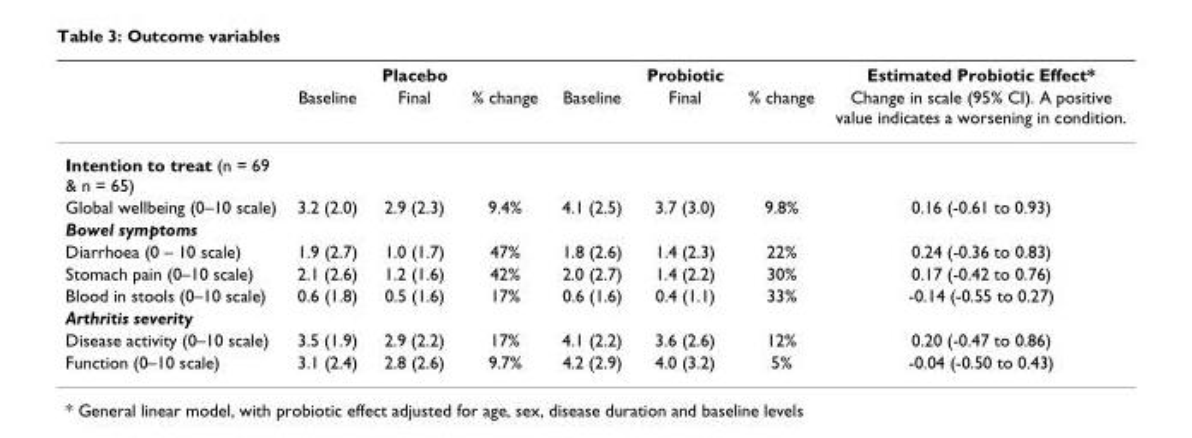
<table><thead><tr><td rowspan="2"></td><td rowspan="2">Baseline</td><td rowspan="2">Placebo Final</td><td rowspan="2">% change</td><td rowspan="2">Baseline</td><td rowspan="2">Probiotic Final</td><td rowspan="2">% change</td><td rowspan="2">Estimated Probiotic Effect* Change in scale (95% CI). A positive value indicates a worsening in condition.</td></tr><tr></tr></thead><tbody><tr><td colspan="8">Intention to treat (n = 69 &amp; n = 65)</td></tr><tr><td>Global wellbeing (0–10 scale)</td><td>3.2 (2.0)</td><td>2.9 (2.3)</td><td>9.4%</td><td>4.1 (2.5)</td><td>3.7 (3.0)</td><td>9.8%</td><td>0.16 (-0.61 to 0.93)</td></tr><tr><td colspan="8">Bowel symptoms</td></tr><tr><td>Diarrhoea (0 – 10 scale)</td><td>1.9 (2.7)</td><td>1.0 (1.7)</td><td>47%</td><td>1.8 (2.6)</td><td>1.4 (2.3)</td><td>22%</td><td>0.24 (-0.36 to 0.83)</td></tr><tr><td>Stomach pain (0–10 scale)</td><td>2.1 (2.6)</td><td>1.2 (1.6)</td><td>42%</td><td>2.0 (2.7)</td><td>1.4 (2.2)</td><td>30%</td><td>0.17 (-0.42 to 0.76)</td></tr><tr><td>Blood in stools (0–10 scale)</td><td>0.6 (1.8)</td><td>0.5 (1.6)</td><td>17%</td><td>0.6 (1.6)</td><td>0.4 (1.1)</td><td>33%</td><td>-0.14 (-0.55 to 0.27)</td></tr><tr><td colspan="8">Arthritis severity</td></tr><tr><td>Disease activity (0–10 scale)</td><td>3.5 (1.9)</td><td>2.9 (2.2)</td><td>17%</td><td>4.1 (2.2)</td><td>3.6 (2.6)</td><td>12%</td><td>0.20 (-0.47 to 0.86)</td></tr><tr><td>Function (0–10 scale)</td><td>3.1 (2.4)</td><td>2.8 (2.6)</td><td>9.7%</td><td>4.2 (2.9)</td><td>4.0 (3.2)</td><td>5%</td><td>-0.04 (-0.50 to 0.43)</td></tr></tbody></table>